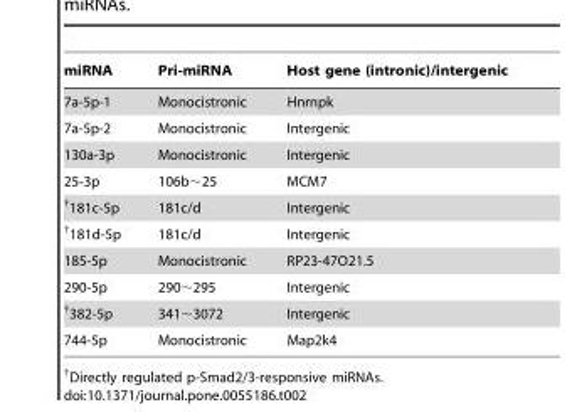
<table><thead><tr><td>miRNA</td><td>Pri-miRNA</td><td>Host gene (intronic)/intergenic</td></tr></thead><tbody><tr><td>7a-5p-1</td><td>Monocistronic</td><td>Hnrnpk</td></tr><tr><td>7a-5p-2</td><td>Monocistronic</td><td>Intergenic</td></tr><tr><td>130a-3p</td><td>Monocistronic</td><td>Intergenic</td></tr><tr><td>25-3p</td><td>106b∼25</td><td>MCM7</td></tr><tr><td>†181c-5p</td><td>181c/d</td><td>Intergenic</td></tr><tr><td>†181d-5p</td><td>181c/d</td><td>Intergenic</td></tr><tr><td>185-5p</td><td>Monocistronic</td><td>RP23-47O21.5</td></tr><tr><td>290-5p</td><td>290∼295</td><td>Intergenic</td></tr><tr><td>†382-5p</td><td>341∼3072</td><td>Intergenic</td></tr><tr><td>744-5p</td><td>Monocistronic</td><td>Map2k4</td></tr></tbody></table>